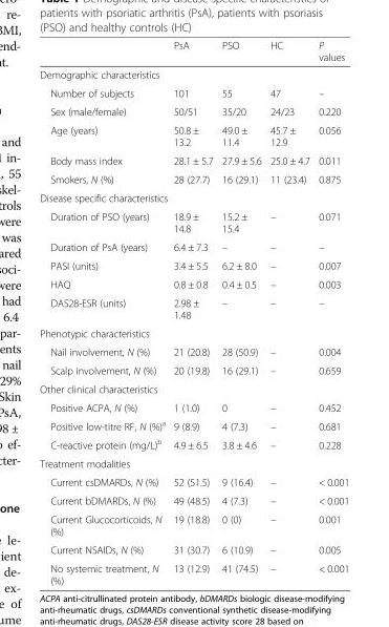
<table><thead><tr><td></td><td>PsA</td><td>PSO</td><td>HC</td><td>P values</td></tr></thead><tbody><tr><td colspan="5">Demographic characteristics</td></tr><tr><td>Number of subjects</td><td>101</td><td>55</td><td>47</td><td>–</td></tr><tr><td>Sex (male/female)</td><td>50/51</td><td>35/20</td><td>24/23</td><td>0.220</td></tr><tr><td>Age (years)</td><td>50.8 ± 13.2</td><td>49.0 ± 11.4</td><td>45.7 ± 12.9</td><td>0.056</td></tr><tr><td>Body mass index</td><td>28.1 ± 5.7</td><td>27.9 ± 5.6</td><td>25.0 ± 4.7</td><td>0.011</td></tr><tr><td>Smokers, N (%)</td><td>28 (27.7)</td><td>16 (29.1)</td><td>11 (23.4)</td><td>0.875</td></tr><tr><td colspan="5">Disease specific characteristics</td></tr><tr><td>Duration of PSO (years)</td><td>18.9 ± 14.8</td><td>15.2 ± 15.4</td><td>–</td><td>0.071</td></tr><tr><td>Duration of PsA (years)</td><td>6.4 ± 7.3</td><td>–</td><td>–</td><td>–</td></tr><tr><td>PASI (units)</td><td>3.4 ± 5.5</td><td>6.2 ± 8.0</td><td>–</td><td>0.007</td></tr><tr><td>HAQ</td><td>0.8 ± 0.8</td><td>0.4 ± 0.5</td><td>–</td><td>0.003</td></tr><tr><td>DAS28-ESR (units)</td><td>2.98 ± 1.48</td><td>–</td><td>–</td><td>–</td></tr><tr><td colspan="5">Phenotypic characteristics</td></tr><tr><td>Nail involvement, N (%)</td><td>21 (20.8)</td><td>28 (50.9)</td><td>–</td><td>0.004</td></tr><tr><td>Scalp involvement, N (%)</td><td>20 (19.8)</td><td>16 (29.1)</td><td>–</td><td>0.659</td></tr><tr><td colspan="5">Other clinical characteristics</td></tr><tr><td>Positive ACPA, N (%)</td><td>1 (1.0)</td><td>0</td><td>–</td><td>0.452</td></tr><tr><td>Positive low-titre RF, N (%)<sup>a</sup></td><td>9 (8.9)</td><td>4 (7.3)</td><td>–</td><td>0.681</td></tr><tr><td>C-reactive protein (mg/L)<sup>b</sup></td><td>4.9 ± 6.5</td><td>3.8 ± 4.6</td><td>–</td><td>0.228</td></tr><tr><td colspan="5">Treatment modalities</td></tr><tr><td>Current csDMARDs, N (%)</td><td>52 (51.5)</td><td>9 (16.4)</td><td>–</td><td>&lt; 0.001</td></tr><tr><td>Current bDMARDs, N (%)</td><td>49 (48.5)</td><td>4 (7.3)</td><td>–</td><td>&lt; 0.001</td></tr><tr><td>Current Glucocorticoids, N (%)</td><td>19 (18.8)</td><td>0 (0)</td><td>–</td><td>0.001</td></tr><tr><td>Current NSAIDs, N (%)</td><td>31 (30.7)</td><td>6 (10.9)</td><td>–</td><td>0.005</td></tr><tr><td>No systemic treatment, N (%)</td><td>13 (12.9)</td><td>41 (74.5)</td><td>–</td><td>&lt; 0.001</td></tr></tbody></table>